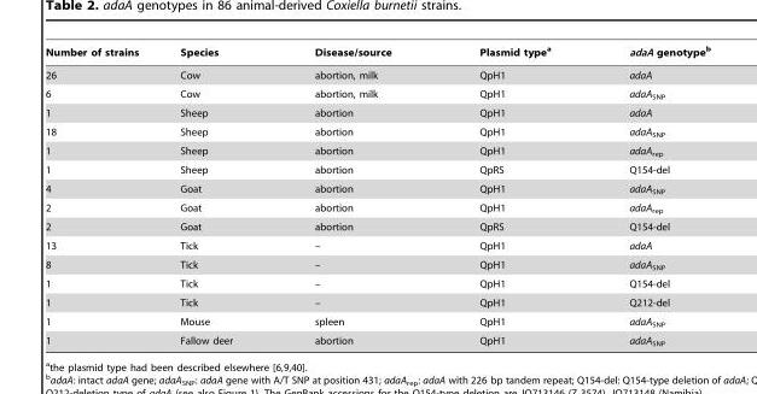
<table><thead><tr><td>Number of strains</td><td>Species</td><td>Disease/source</td><td>Plasmid type<sup>a</sup></td><td>adaA genotype<sup>b</sup></td></tr></thead><tbody><tr><td>26</td><td>Cow</td><td>abortion, milk</td><td>QpH1</td><td>adaA</td></tr><tr><td>6</td><td>Cow</td><td>abortion, milk</td><td>QpH1</td><td>adaA<sub>SNP</sub></td></tr><tr><td>1</td><td>Sheep</td><td>abortion</td><td>QpH1</td><td>adaA</td></tr><tr><td>18</td><td>Sheep</td><td>abortion</td><td>QpH1</td><td>adaA<sub>SNP</sub></td></tr><tr><td>1</td><td>Sheep</td><td>abortion</td><td>QpH1</td><td>adaA<sub>rep</sub></td></tr><tr><td>1</td><td>Sheep</td><td>abortion</td><td>QpRS</td><td>Q154-del</td></tr><tr><td>4</td><td>Goat</td><td>abortion</td><td>QpH1</td><td>adaA<sub>SNP</sub></td></tr><tr><td>2</td><td>Goat</td><td>abortion</td><td>QpH1</td><td>adaA<sub>rep</sub></td></tr><tr><td>2</td><td>Goat</td><td>abortion</td><td>QpRS</td><td>Q154-del</td></tr><tr><td>13</td><td>Tick</td><td>–</td><td>QpH1</td><td>adaA</td></tr><tr><td>8</td><td>Tick</td><td>–</td><td>QpH1</td><td>adaA<sub>SNP</sub></td></tr><tr><td>1</td><td>Tick</td><td>–</td><td>QpH1</td><td>Q154-del</td></tr><tr><td>1</td><td>Tick</td><td>–</td><td>QpH1</td><td>Q212-del</td></tr><tr><td>1</td><td>Mouse</td><td>spleen</td><td>QpH1</td><td>adaA<sub>SNP</sub></td></tr><tr><td>1</td><td>Fallow deer</td><td>abortion</td><td>QpH1</td><td>adaA<sub>SNP</sub></td></tr></tbody></table>